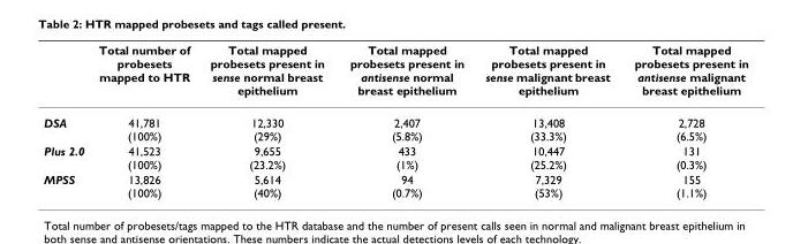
<table><thead><tr><td></td><td>Total number of probesets mapped to HTR</td><td>Total mapped probesets present in sense normal breast epithelium</td><td>Total mapped probesets present in antisense normal breast epithelium</td><td>Total mapped probesets present in sense malignant breast epithelium</td><td>Total mapped probesets present in antisense malignant breast epithelium</td></tr></thead><tbody><tr><td>DSA</td><td>41,781 (100%)</td><td>12,330 (29%)</td><td>2,407 (5.8%)</td><td>13,408 (33.3%)</td><td>2,728 (6.5%)</td></tr><tr><td>Plus 2.0</td><td>41,523 (100%)</td><td>9,655 (23.2%)</td><td>433 (1%)</td><td>10,447 (25.2%)</td><td>131 (0.3%)</td></tr><tr><td>MPSS</td><td>13,826 (100%)</td><td>5,614 (40%)</td><td>94 (0.7%)</td><td>7,329 (53%)</td><td>155 (1.1%)</td></tr></tbody></table>